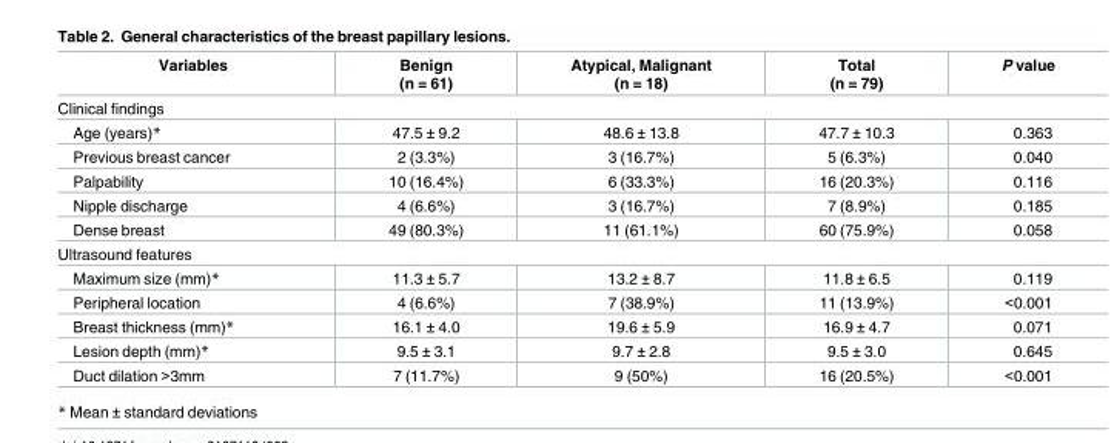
<table><thead><tr><td>Variables</td><td>Benign (n = 61)</td><td>Atypical, Malignant (n = 18)</td><td>Total (n = 79)</td><td>P value</td></tr></thead><tbody><tr><td colspan="5">Clinical findings</td></tr><tr><td>Age (years)*</td><td>47.5 ± 9.2</td><td>48.6 ± 13.8</td><td>47.7 ± 10.3</td><td>0.363</td></tr><tr><td>Previous breast cancer</td><td>2 (3.3%)</td><td>3 (16.7%)</td><td>5 (6.3%)</td><td>0.040</td></tr><tr><td>Palpability</td><td>10 (16.4%)</td><td>6 (33.3%)</td><td>16 (20.3%)</td><td>0.116</td></tr><tr><td>Nipple discharge</td><td>4 (6.6%)</td><td>3 (16.7%)</td><td>7 (8.9%)</td><td>0.185</td></tr><tr><td>Dense breast</td><td>49 (80.3%)</td><td>11 (61.1%)</td><td>60 (75.9%)</td><td>0.058</td></tr><tr><td colspan="5">Ultrasound features</td></tr><tr><td>Maximum size (mm)*</td><td>11.3 ± 5.7</td><td>13.2 ± 8.7</td><td>11.8 ± 6.5</td><td>0.119</td></tr><tr><td>Peripheral location</td><td>4 (6.6%)</td><td>7 (38.9%)</td><td>11 (13.9%)</td><td>&lt;0.001</td></tr><tr><td>Breast thickness (mm)*</td><td>16.1 ± 4.0</td><td>19.6 ± 5.9</td><td>16.9 ± 4.7</td><td>0.071</td></tr><tr><td>Lesion depth (mm)*</td><td>9.5 ± 3.1</td><td>9.7 ± 2.8</td><td>9.5 ± 3.0</td><td>0.645</td></tr><tr><td>Duct dilation &gt;3mm</td><td>7 (11.7%)</td><td>9 (50%)</td><td>16 (20.5%)</td><td>&lt;0.001</td></tr></tbody></table>